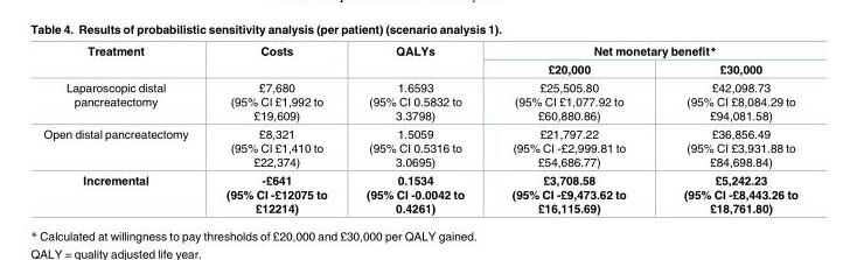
<table><thead><tr><td rowspan="2">Treatment</td><td rowspan="2">Costs</td><td rowspan="2">QALYs</td><td colspan="2">Net monetary benefit*</td></tr><tr><td>£20,000</td><td>£30,000</td></tr></thead><tbody><tr><td>Laparoscopic distal pancreatectomy</td><td>£7,680 (95% CI £1,992 to £19,609)</td><td>1.6593 (95% CI 0.5832 to 3.3798)</td><td>£25,505.80 (95% CI £1,077.92 to £60,880.86)</td><td>£42,098.73 (95% CI £8,084.29 to £94,081.58)</td></tr><tr><td>Open distal pancreatectomy</td><td>£8,321 (95% CI £1,410 to £22,374)</td><td>1.5059 (95% CI 0.5316 to 3.0695)</td><td>£21,797.22 (95% CI -£2,999.81 to £54,686.77)</td><td>£36,856.49 (95% CI £3,931.88 to £84,698.84)</td></tr><tr><td>Incremental</td><td>-£641 (95% CI -£12075 to £12214)</td><td>0.1534 (95% CI -0.0042 to 0.4261)</td><td>£3,708.58 (95% CI -£9,473.62 to £16,115.69)</td><td>£5,242.23 (95% CI -£8,443.26 to £18,761.80)</td></tr></tbody></table>